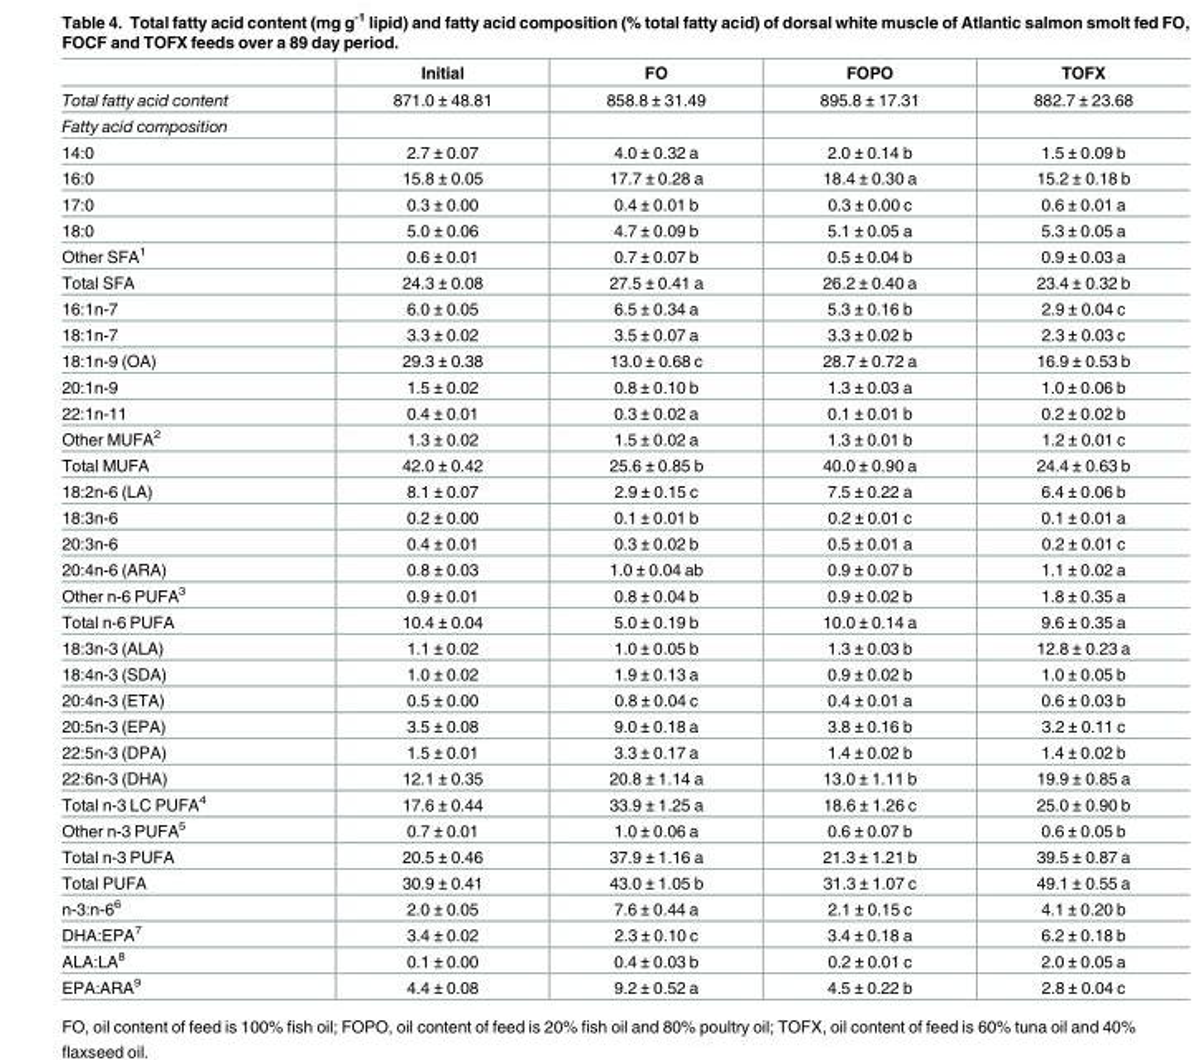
<table><thead><tr><td></td><td>Initial</td><td>FO</td><td>FOPO</td><td>TOFX</td></tr></thead><tbody><tr><td>Total fatty acid content</td><td>871.0 ± 48.81</td><td>858.8 ± 31.49</td><td>895.8 ± 17.31</td><td>882.7 ± 23.68</td></tr><tr><td colspan="5">Fatty acid composition</td></tr><tr><td>14:0</td><td>2.7 ± 0.07</td><td>4.0 ± 0.32 a</td><td>2.0 ± 0.14 b</td><td>1.5 ± 0.09 b</td></tr><tr><td>16:0</td><td>15.8 ± 0.05</td><td>17.7 ± 0.28 a</td><td>18.4 ± 0.30 a</td><td>15.2 ± 0.18 b</td></tr><tr><td>17:0</td><td>0.3 ± 0.00</td><td>0.4 ± 0.01 b</td><td>0.3 ± 0.00 c</td><td>0.6 ± 0.01 a</td></tr><tr><td>18:0</td><td>5.0 ± 0.06</td><td>4.7 ± 0.09 b</td><td>5.1 ± 0.05 a</td><td>5.3 ± 0.05 a</td></tr><tr><td>Other SFA<sup>1</sup></td><td>0.6 ± 0.01</td><td>0.7 ± 0.07 b</td><td>0.5 ± 0.04 b</td><td>0.9 ± 0.03 a</td></tr><tr><td>Total SFA</td><td>24.3 ± 0.08</td><td>27.5 ± 0.41 a</td><td>26.2 ± 0.40 a</td><td>23.4 ± 0.32 b</td></tr><tr><td>16:1n-7</td><td>6.0 ± 0.05</td><td>6.5 ± 0.34 a</td><td>5.3 ± 0.16 b</td><td>2.9 ± 0.04 c</td></tr><tr><td>18:1n-7</td><td>3.3 ± 0.02</td><td>3.5 ± 0.07 a</td><td>3.3 ± 0.02 b</td><td>2.3 ± 0.03 c</td></tr><tr><td>18:1n-9 (OA)</td><td>29.3 ± 0.38</td><td>13.0 ± 0.68 c</td><td>28.7 ± 0.72 a</td><td>16.9 ± 0.53 b</td></tr><tr><td>20:1n-9</td><td>1.5 ± 0.02</td><td>0.8 ± 0.10 b</td><td>1.3 ± 0.03 a</td><td>1.0 ± 0.06 b</td></tr><tr><td>22:1n-11</td><td>0.4 ± 0.01</td><td>0.3 ± 0.02 a</td><td>0.1 ± 0.01 b</td><td>0.2 ± 0.02 b</td></tr><tr><td>Other MUFA<sup>2</sup></td><td>1.3 ± 0.02</td><td>1.5 ± 0.02 a</td><td>1.3 ± 0.01 b</td><td>1.2 ± 0.01 c</td></tr><tr><td>Total MUFA</td><td>42.0 ± 0.42</td><td>25.6 ± 0.85 b</td><td>40.0 ± 0.90 a</td><td>24.4 ± 0.63 b</td></tr><tr><td>18:2n-6 (LA)</td><td>8.1 ± 0.07</td><td>2.9 ± 0.15 c</td><td>7.5 ± 0.22 a</td><td>6.4 ± 0.06 b</td></tr><tr><td>18:3n-6</td><td>0.2 ± 0.00</td><td>0.1 ± 0.01 b</td><td>0.2 ± 0.01 c</td><td>0.1 ± 0.01 a</td></tr><tr><td>20:3n-6</td><td>0.4 ± 0.01</td><td>0.3 ± 0.02 b</td><td>0.5 ± 0.01 a</td><td>0.2 ± 0.01 c</td></tr><tr><td>20:4n-6 (ARA)</td><td>0.8 ± 0.03</td><td>1.0 ± 0.04 ab</td><td>0.9 ± 0.07 b</td><td>1.1 ± 0.02 a</td></tr><tr><td>Other n-6 PUFA<sup>3</sup></td><td>0.9 ± 0.01</td><td>0.8 ± 0.04 b</td><td>0.9 ± 0.02 b</td><td>1.8 ± 0.35 a</td></tr><tr><td>Total n-6 PUFA</td><td>10.4 ± 0.04</td><td>5.0 ± 0.19 b</td><td>10.0 ± 0.14 a</td><td>9.6 ± 0.35 a</td></tr><tr><td>18:3n-3 (ALA)</td><td>1.1 ± 0.02</td><td>1.0 ± 0.05 b</td><td>1.3 ± 0.03 b</td><td>12.8 ± 0.23 a</td></tr><tr><td>18:4n-3 (SDA)</td><td>1.0 ± 0.02</td><td>1.9 ± 0.13 a</td><td>0.9 ± 0.02 b</td><td>1.0 ± 0.05 b</td></tr><tr><td>20:4n-3 (ETA)</td><td>0.5 ± 0.00</td><td>0.8 ± 0.04 c</td><td>0.4 ± 0.01 a</td><td>0.6 ± 0.03 b</td></tr><tr><td>20:5n-3 (EPA)</td><td>3.5 ± 0.08</td><td>9.0 ± 0.18 a</td><td>3.8 ± 0.16 b</td><td>3.2 ± 0.11 c</td></tr><tr><td>22:5n-3 (DPA)</td><td>1.5 ± 0.01</td><td>3.3 ± 0.17 a</td><td>1.4 ± 0.02 b</td><td>1.4 ± 0.02 b</td></tr><tr><td>22:6n-3 (DHA)</td><td>12.1 ± 0.35</td><td>20.8 ± 1.14 a</td><td>13.0 ± 1.11 b</td><td>19.9 ± 0.85 a</td></tr><tr><td>Total n-3 LC PUFA<sup>4</sup></td><td>17.6 ± 0.44</td><td>33.9 ± 1.25 a</td><td>18.6 ± 1.26 c</td><td>25.0 ± 0.90 b</td></tr><tr><td>Other n-3 PUFA<sup>5</sup></td><td>0.7 ± 0.01</td><td>1.0 ± 0.06 a</td><td>0.6 ± 0.07 b</td><td>0.6 ± 0.05 b</td></tr><tr><td>Total n-3 PUFA</td><td>20.5 ± 0.46</td><td>37.9 ± 1.16 a</td><td>21.3 ± 1.21 b</td><td>39.5 ± 0.87 a</td></tr><tr><td>Total PUFA</td><td>30.9 ± 0.41</td><td>43.0 ± 1.05 b</td><td>31.3 ± 1.07 c</td><td>49.1 ± 0.55 a</td></tr><tr><td>n-3:n-6<sup>6</sup></td><td>2.0 ± 0.05</td><td>7.6 ± 0.44 a</td><td>2.1 ± 0.15 c</td><td>4.1 ± 0.20 b</td></tr><tr><td>DHA:EPA<sup>7</sup></td><td>3.4 ± 0.02</td><td>2.3 ± 0.10 c</td><td>3.4 ± 0.18 a</td><td>6.2 ± 0.18 b</td></tr><tr><td>ALA:LA<sup>8</sup></td><td>0.1 ± 0.00</td><td>0.4 ± 0.03 b</td><td>0.2 ± 0.01 c</td><td>2.0 ± 0.05 a</td></tr><tr><td>EPA:ARA<sup>9</sup></td><td>4.4 ± 0.08</td><td>9.2 ± 0.52 a</td><td>4.5 ± 0.22 b</td><td>2.8 ± 0.04 c</td></tr></tbody></table>